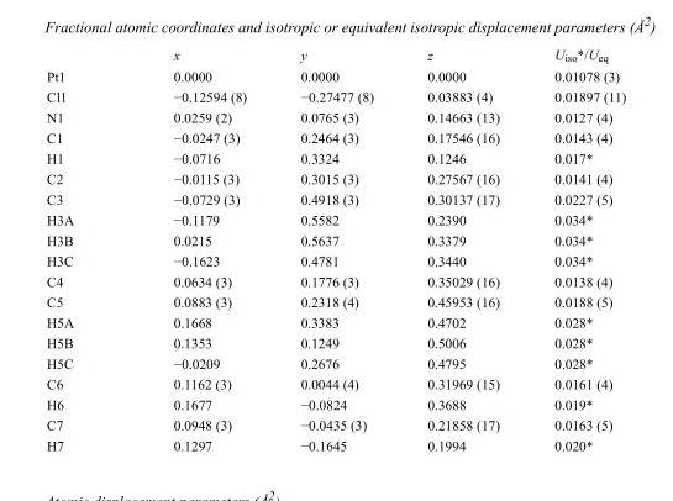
<table><thead><tr><td></td><td>x</td><td>y</td><td>z</td><td>U<sub>iso</sub>*/U<sub>eq</sub></td></tr></thead><tbody><tr><td>Pt1</td><td>0.0000</td><td>0.0000</td><td>0.0000</td><td>0.01078 (3)</td></tr><tr><td>Cl1</td><td>−0.12594 (8)</td><td>−0.27477 (8)</td><td>0.03883 (4)</td><td>0.01897 (11)</td></tr><tr><td>N1</td><td>0.0259 (2)</td><td>0.0765 (3)</td><td>0.14663 (13)</td><td>0.0127 (4)</td></tr><tr><td>C1</td><td>−0.0247 (3)</td><td>0.2464 (3)</td><td>0.17546 (16)</td><td>0.0143 (4)</td></tr><tr><td>H1</td><td>−0.0716</td><td>0.3324</td><td>0.1246</td><td>0.017*</td></tr><tr><td>C2</td><td>−0.0115 (3)</td><td>0.3015 (3)</td><td>0.27567 (16)</td><td>0.0141 (4)</td></tr><tr><td>C3</td><td>−0.0729 (3)</td><td>0.4918 (3)</td><td>0.30137 (17)</td><td>0.0227 (5)</td></tr><tr><td>H3A</td><td>−0.1179</td><td>0.5582</td><td>0.2390</td><td>0.034*</td></tr><tr><td>H3B</td><td>0.0215</td><td>0.5637</td><td>0.3379</td><td>0.034*</td></tr><tr><td>H3C</td><td>−0.1623</td><td>0.4781</td><td>0.3440</td><td>0.034*</td></tr><tr><td>C4</td><td>0.0634 (3)</td><td>0.1776 (3)</td><td>0.35029 (16)</td><td>0.0138 (4)</td></tr><tr><td>C5</td><td>0.0883 (3)</td><td>0.2318 (4)</td><td>0.45953 (16)</td><td>0.0188 (5)</td></tr><tr><td>H5A</td><td>0.1668</td><td>0.3383</td><td>0.4702</td><td>0.028*</td></tr><tr><td>H5B</td><td>0.1353</td><td>0.1249</td><td>0.5006</td><td>0.028*</td></tr><tr><td>H5C</td><td>−0.0209</td><td>0.2676</td><td>0.4795</td><td>0.028*</td></tr><tr><td>C6</td><td>0.1162 (3)</td><td>0.0044 (4)</td><td>0.31969 (15)</td><td>0.0161 (4)</td></tr><tr><td>H6</td><td>0.1677</td><td>−0.0824</td><td>0.3688</td><td>0.019*</td></tr><tr><td>C7</td><td>0.0948 (3)</td><td>−0.0435 (3)</td><td>0.21858 (17)</td><td>0.0163 (5)</td></tr><tr><td>H7</td><td>0.1297</td><td>−0.1645</td><td>0.1994</td><td>0.020*</td></tr></tbody></table>